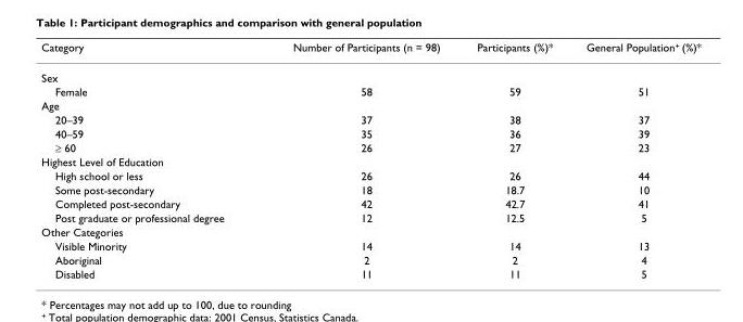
<table><thead><tr><td>Category</td><td>Number of Participants (n = 98)</td><td>Participants (%)*</td><td>General Population<sup>+</sup> (%)*</td></tr></thead><tbody><tr><td colspan="4">Sex</td></tr><tr><td>Female</td><td>58</td><td>59</td><td>51</td></tr><tr><td colspan="4">Age</td></tr><tr><td>20–39</td><td>37</td><td>38</td><td>37</td></tr><tr><td>40–59</td><td>35</td><td>36</td><td>39</td></tr><tr><td>≥ 60</td><td>26</td><td>27</td><td>23</td></tr><tr><td colspan="4">Highest Level of Education</td></tr><tr><td>High school or less</td><td>26</td><td>26</td><td>44</td></tr><tr><td>Some post-secondary</td><td>18</td><td>18.7</td><td>10</td></tr><tr><td>Completed post-secondary</td><td>42</td><td>42.7</td><td>41</td></tr><tr><td>Post graduate or professional degree</td><td>12</td><td>12.5</td><td>5</td></tr><tr><td colspan="4">Other Categories</td></tr><tr><td>Visible Minority</td><td>14</td><td>14</td><td>13</td></tr><tr><td>Aboriginal</td><td>2</td><td>2</td><td>4</td></tr><tr><td>Disabled</td><td>11</td><td>11</td><td>5</td></tr></tbody></table>